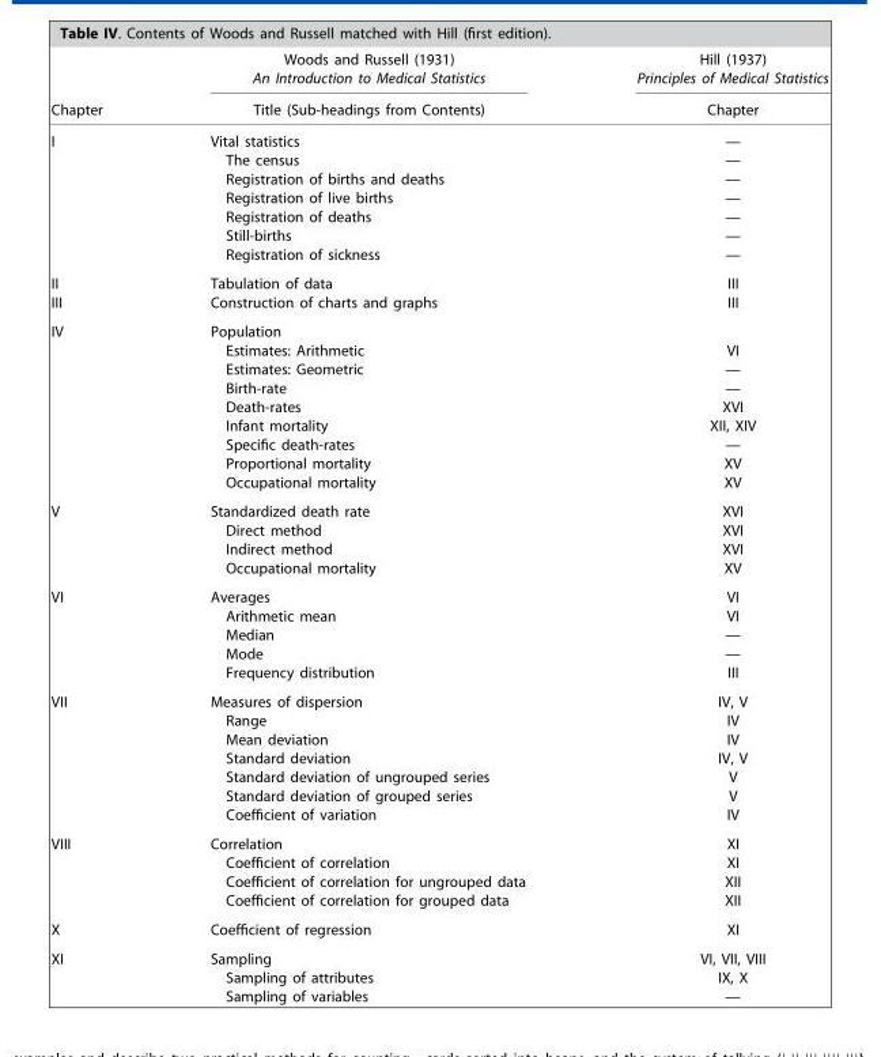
<table><thead><tr><td rowspan="2">Chapter</td><td rowspan="2">Woods and Russell (1931) An Introduction to Medical Statistics Title (Sub-headings from Contents)</td><td rowspan="2">Hill (1937) Principles of Medical Statistics Chapter</td></tr><tr></tr></thead><tbody><tr><td rowspan="7">I</td><td>Vital statistics</td><td>—</td></tr><tr><td>The census</td><td>—</td></tr><tr><td>Registration of births and deaths</td><td>—</td></tr><tr><td>Registration of live births</td><td>—</td></tr><tr><td>Registration of deaths</td><td>—</td></tr><tr><td>Still-births</td><td>—</td></tr><tr><td>Registration of sickness</td><td>—</td></tr><tr><td>II</td><td>Tabulation of data</td><td>III</td></tr><tr><td>III</td><td>Construction of charts and graphs</td><td>III</td></tr><tr><td rowspan="9">IV</td><td>Population</td><td></td></tr><tr><td>Estimates: Arithmetic</td><td>VI</td></tr><tr><td>Estimates: Geometric</td><td>—</td></tr><tr><td>Birth-rate</td><td>—</td></tr><tr><td>Death-rates</td><td>XVI</td></tr><tr><td>Infant mortality</td><td>XII, XIV</td></tr><tr><td>Specific death-rates</td><td>—</td></tr><tr><td>Proportional mortality</td><td>XV</td></tr><tr><td>Occupational mortality</td><td>XV</td></tr><tr><td rowspan="4">V</td><td>Standardized death rate</td><td>XVI</td></tr><tr><td>Direct method</td><td>XVI</td></tr><tr><td>Indirect method</td><td>XVI</td></tr><tr><td>Occupational mortality</td><td>XV</td></tr><tr><td rowspan="5">VI</td><td>Averages</td><td>VI</td></tr><tr><td>Arithmetic mean</td><td>VI</td></tr><tr><td>Median</td><td>—</td></tr><tr><td>Mode</td><td>—</td></tr><tr><td>Frequency distribution</td><td>III</td></tr><tr><td rowspan="7">VII</td><td>Measures of dispersion</td><td>IV, V</td></tr><tr><td>Range</td><td>IV</td></tr><tr><td>Mean deviation</td><td>IV</td></tr><tr><td>Standard deviation</td><td>IV, V</td></tr><tr><td>Standard deviation of ungrouped series</td><td>V</td></tr><tr><td>Standard deviation of grouped series</td><td>V</td></tr><tr><td>Coefficient of variation</td><td>IV</td></tr><tr><td rowspan="4">VIII</td><td>Correlation</td><td>XI</td></tr><tr><td>Coefficient of correlation</td><td>XI</td></tr><tr><td>Coefficient of correlation for ungrouped data</td><td>XII</td></tr><tr><td>Coefficient of correlation for grouped data</td><td>XII</td></tr><tr><td>X</td><td>Coefficient of regression</td><td>XI</td></tr><tr><td rowspan="3">XI</td><td>Sampling</td><td>VI, VII, VIII</td></tr><tr><td>Sampling of attributes</td><td>IX, X</td></tr><tr><td>Sampling of variables</td><td>—</td></tr></tbody></table>